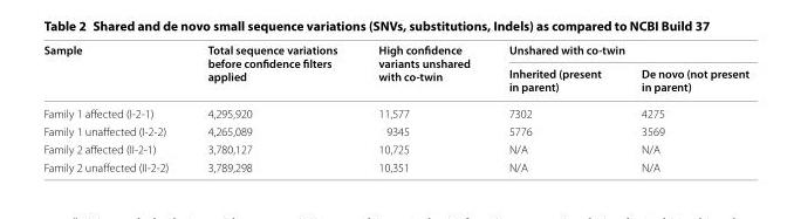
<table><thead><tr><td rowspan="2">Sample</td><td rowspan="2">Total sequence variations before confidence filters applied</td><td rowspan="2">High confidence variants unshared with co-twin</td><td colspan="2">Unshared with co-twin</td></tr><tr><td>Inherited (present in parent)</td><td>De novo (not present in parent)</td></tr></thead><tbody><tr><td>Family 1 affected (I-2-1)</td><td>4,295,920</td><td>11,577</td><td>7302</td><td>4275</td></tr><tr><td>Family 1 unaffected (I-2-2)</td><td>4,265,089</td><td>9345</td><td>5776</td><td>3569</td></tr><tr><td>Family 2 affected (II-2-1)</td><td>3,780,127</td><td>10,725</td><td>N/A</td><td>N/A</td></tr><tr><td>Family 2 unaffected (II-2-2)</td><td>3,789,298</td><td>10,351</td><td>N/A</td><td>N/A</td></tr></tbody></table>